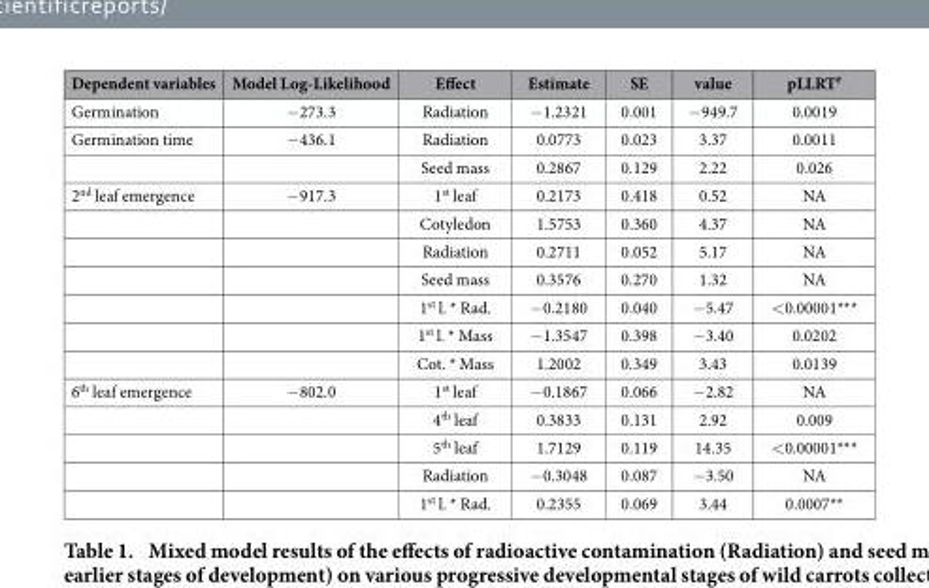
<table><thead><tr><td>Dependent variables</td><td>Model Log-Likelihood</td><td>Effect</td><td>Estimate</td><td>SE</td><td>value</td><td>pLLRT#</td></tr></thead><tbody><tr><td>Germination</td><td>− 273.3</td><td>Radiation</td><td>− 1.2321</td><td>0.001</td><td>− 949.7</td><td>0.0019</td></tr><tr><td rowspan="2">Germination time</td><td>− 436.1</td><td>Radiation</td><td>0.0773</td><td>0.023</td><td>3.37</td><td>0.0011</td></tr><tr><td></td><td>Seed mass</td><td>0.2867</td><td>0.129</td><td>2.22</td><td>0.026</td></tr><tr><td rowspan="7">2<sup>nd</sup> leaf emergence</td><td>− 917.3</td><td>1<sup>st</sup> leaf</td><td>0.2173</td><td>0.418</td><td>0.52</td><td>NA</td></tr><tr><td></td><td>Cotyledon</td><td>1.5753</td><td>0.360</td><td>4.37</td><td>NA</td></tr><tr><td></td><td>Radiation</td><td>0.2711</td><td>0.052</td><td>5.17</td><td>NA</td></tr><tr><td></td><td>Seed mass</td><td>0.3576</td><td>0.270</td><td>1.32</td><td>NA</td></tr><tr><td></td><td>1<sup>st</sup> l. * Rad.</td><td>− 0.2180</td><td>0.040</td><td>− 5.47</td><td>&lt; 0.00001***</td></tr><tr><td></td><td>1<sup>st</sup> l. * Mass</td><td>− 1.3547</td><td>0.398</td><td>− 3.40</td><td>0.0202</td></tr><tr><td></td><td>Cot. * Mass</td><td>1.2002</td><td>0.349</td><td>3.43</td><td>0.0139</td></tr><tr><td rowspan="5">6<sup>th</sup> leaf emergence</td><td>− 802.0</td><td>1<sup>st</sup> leaf</td><td>− 0.1867</td><td>0.066</td><td>− 2.82</td><td>NA</td></tr><tr><td></td><td>4<sup>th</sup> leaf</td><td>0.3833</td><td>0.131</td><td>2.92</td><td>0.009</td></tr><tr><td></td><td>5<sup>th</sup> leaf</td><td>1.7129</td><td>0.119</td><td>14.35</td><td>&lt; 0.00001***</td></tr><tr><td></td><td>Radiation</td><td>− 0.3048</td><td>0.087</td><td>− 3.50</td><td>NA</td></tr><tr><td></td><td>1<sup>st</sup> l. * Rad.</td><td>0.2355</td><td>0.069</td><td>3.44</td><td>0.0007**</td></tr></tbody></table>